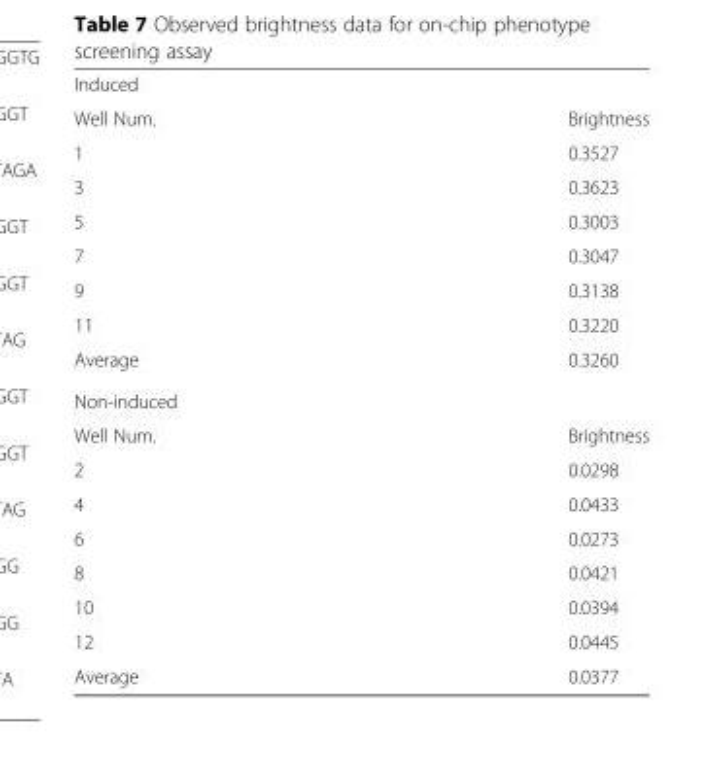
<table><tbody><tr><td colspan="2">Induced</td></tr><tr><td>Well Num.</td><td>Brightness</td></tr><tr><td>1</td><td>0.3527</td></tr><tr><td>3</td><td>0.3623</td></tr><tr><td>5</td><td>0.3003</td></tr><tr><td>7</td><td>0.3047</td></tr><tr><td>9</td><td>0.3138</td></tr><tr><td>11</td><td>0.3220</td></tr><tr><td>Average</td><td>0.3260</td></tr><tr><td colspan="2">Non-induced</td></tr><tr><td>Well Num.</td><td>Brightness</td></tr><tr><td>2</td><td>0.0298</td></tr><tr><td>4</td><td>0.0433</td></tr><tr><td>6</td><td>0.0273</td></tr><tr><td>8</td><td>0.0421</td></tr><tr><td>10</td><td>0.0394</td></tr><tr><td>12</td><td>0.0445</td></tr><tr><td>Average</td><td>0.0377</td></tr></tbody></table>